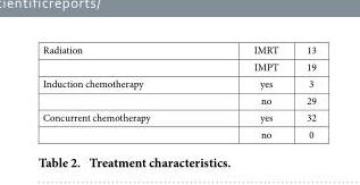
<table><tbody><tr><td rowspan="2">Radiation</td><td>IMRT</td><td>13</td></tr><tr><td>IMPT</td><td>19</td></tr><tr><td rowspan="2">Induction chemotherapy</td><td>yes</td><td>3</td></tr><tr><td>no</td><td>29</td></tr><tr><td rowspan="2">Concurrent chemotherapy</td><td>yes</td><td>32</td></tr><tr><td>no</td><td>0</td></tr></tbody></table>